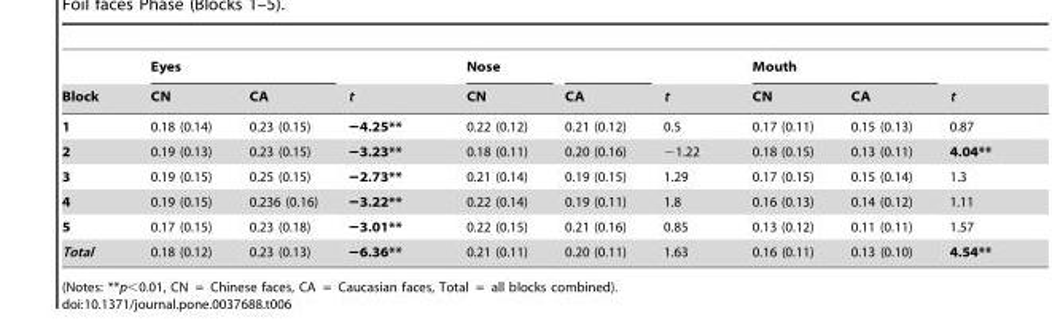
<table><thead><tr><td rowspan="2">Block</td><td colspan="2">Eyes</td><td rowspan="2">t</td><td rowspan="2">Nose CN</td><td rowspan="2">CA</td><td rowspan="2">t</td><td colspan="2">Mouth</td><td rowspan="2">t</td></tr><tr><td>CN</td><td>CA</td><td>CN</td><td>CA</td></tr></thead><tbody><tr><td>1</td><td>0.18 (0.14)</td><td>0.23 (0.15)</td><td>−4.25**</td><td>0.22 (0.12)</td><td>0.21 (0.12)</td><td>0.5</td><td>0.17 (0.11)</td><td>0.15 (0.13)</td><td>0.87</td></tr><tr><td>2</td><td>0.19 (0.13)</td><td>0.23 (0.15)</td><td>−3.23**</td><td>0.18 (0.11)</td><td>0.20 (0.16)</td><td>−1.22</td><td>0.18 (0.15)</td><td>0.13 (0.11)</td><td>4.04**</td></tr><tr><td>3</td><td>0.19 (0.15)</td><td>0.25 (0.15)</td><td>−2.73**</td><td>0.21 (0.14)</td><td>0.19 (0.15)</td><td>1.29</td><td>0.17 (0.15)</td><td>0.15 (0.14)</td><td>1.3</td></tr><tr><td>4</td><td>0.19 (0.15)</td><td>0.236 (0.16)</td><td>−3.22**</td><td>0.22 (0.14)</td><td>0.19 (0.11)</td><td>1.8</td><td>0.16 (0.13)</td><td>0.14 (0.12)</td><td>1.11</td></tr><tr><td>5</td><td>0.17 (0.15)</td><td>0.23 (0.18)</td><td>−3.01**</td><td>0.22 (0.15)</td><td>0.21 (0.16)</td><td>0.85</td><td>0.13 (0.12)</td><td>0.11 (0.11)</td><td>1.57</td></tr><tr><td>Total</td><td>0.18 (0.12)</td><td>0.23 (0.13)</td><td>−6.36**</td><td>0.21 (0.11)</td><td>0.20 (0.11)</td><td>1.63</td><td>0.16 (0.11)</td><td>0.13 (0.10)</td><td>4.54**</td></tr></tbody></table>